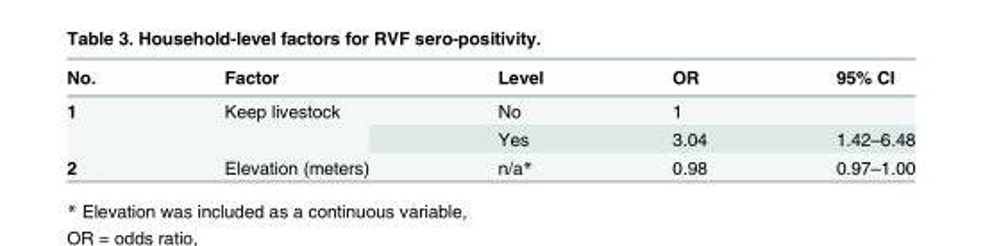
<table><thead><tr><td>No.</td><td>Factor</td><td>Level</td><td>OR</td><td>95% CI</td></tr></thead><tbody><tr><td rowspan="2">1</td><td rowspan="2">Keep livestock</td><td>No</td><td>1</td><td></td></tr><tr><td>Yes</td><td>3.04</td><td>1.42–6.48</td></tr><tr><td>2</td><td>Elevation (meters)</td><td>n/a*</td><td>0.98</td><td>0.97–1.00</td></tr></tbody></table>